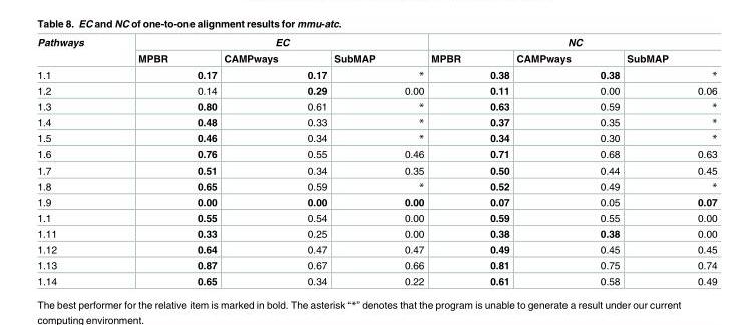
<table><thead><tr><td rowspan="2">Pathways</td><td colspan="3">EC</td><td colspan="3">NC</td></tr><tr><td>MPBR</td><td>CAMPways</td><td>SubMAP</td><td>MPBR</td><td>CAMPways</td><td>SubMAP</td></tr></thead><tbody><tr><td>1.1</td><td>0.17</td><td>0.17</td><td>*</td><td>0.38</td><td>0.38</td><td>*</td></tr><tr><td>1.2</td><td>0.14</td><td>0.29</td><td>0.00</td><td>0.11</td><td>0.00</td><td>0.06</td></tr><tr><td>1.3</td><td>0.80</td><td>0.61</td><td>*</td><td>0.63</td><td>0.59</td><td>*</td></tr><tr><td>1.4</td><td>0.48</td><td>0.33</td><td>*</td><td>0.37</td><td>0.35</td><td>*</td></tr><tr><td>1.5</td><td>0.46</td><td>0.34</td><td>*</td><td>0.34</td><td>0.30</td><td>*</td></tr><tr><td>1.6</td><td>0.76</td><td>0.55</td><td>0.46</td><td>0.71</td><td>0.68</td><td>0.63</td></tr><tr><td>1.7</td><td>0.51</td><td>0.34</td><td>0.35</td><td>0.50</td><td>0.44</td><td>0.45</td></tr><tr><td>1.8</td><td>0.65</td><td>0.59</td><td>*</td><td>0.52</td><td>0.49</td><td>*</td></tr><tr><td>1.9</td><td>0.00</td><td>0.00</td><td>0.00</td><td>0.07</td><td>0.05</td><td>0.07</td></tr><tr><td>1.1</td><td>0.55</td><td>0.54</td><td>0.00</td><td>0.59</td><td>0.55</td><td>0.00</td></tr><tr><td>1.11</td><td>0.33</td><td>0.25</td><td>0.00</td><td>0.38</td><td>0.38</td><td>0.00</td></tr><tr><td>1.12</td><td>0.64</td><td>0.47</td><td>0.47</td><td>0.49</td><td>0.45</td><td>0.45</td></tr><tr><td>1.13</td><td>0.87</td><td>0.67</td><td>0.66</td><td>0.81</td><td>0.75</td><td>0.74</td></tr><tr><td>1.14</td><td>0.65</td><td>0.34</td><td>0.22</td><td>0.61</td><td>0.58</td><td>0.49</td></tr></tbody></table>